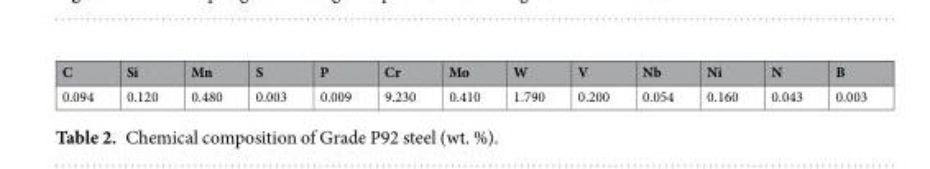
<table><thead><tr><td>C</td><td>Si</td><td>Mn</td><td>S</td><td>P</td><td>Cr</td><td>Mo</td><td>W</td><td>V</td><td>Nb</td><td>Ni</td><td>N</td><td>B</td></tr></thead><tbody><tr><td>0.094</td><td>0.120</td><td>0.480</td><td>0.003</td><td>0.009</td><td>9.230</td><td>0.410</td><td>1.790</td><td>0.200</td><td>0.054</td><td>0.160</td><td>0.043</td><td>0.003</td></tr></tbody></table>